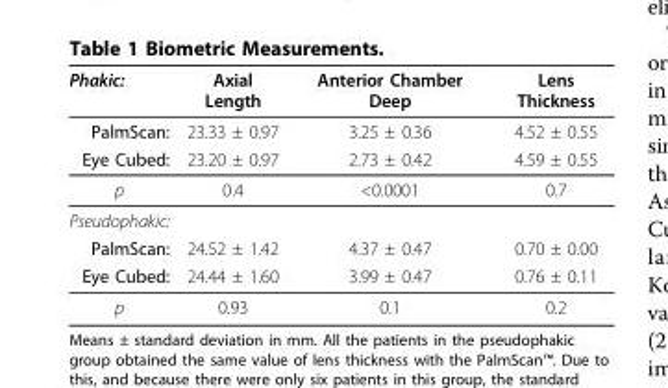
<table><thead><tr><td>Phakic:</td><td>Axial Length</td><td>Anterior Chamber Deep</td><td>Lens Thickness</td></tr></thead><tbody><tr><td>PalmScan:</td><td>23.33 ± 0.97</td><td>3.25 ± 0.36</td><td>4.52 ± 0.55</td></tr><tr><td>Eye Cubed:</td><td>23.20 ± 0.97</td><td>2.73 ± 0.42</td><td>4.59 ± 0.55</td></tr><tr><td>p</td><td>0.4</td><td>&lt;0.0001</td><td>0.7</td></tr><tr><td colspan="4">Pseudophakic:</td></tr><tr><td>PalmScan:</td><td>24.52 ± 1.42</td><td>4.37 ± 0.47</td><td>0.70 ± 0.00</td></tr><tr><td>Eye Cubed:</td><td>24.44 ± 1.60</td><td>3.99 ± 0.47</td><td>0.76 ± 0.11</td></tr><tr><td>p</td><td>0.93</td><td>0.1</td><td>0.2</td></tr></tbody></table>